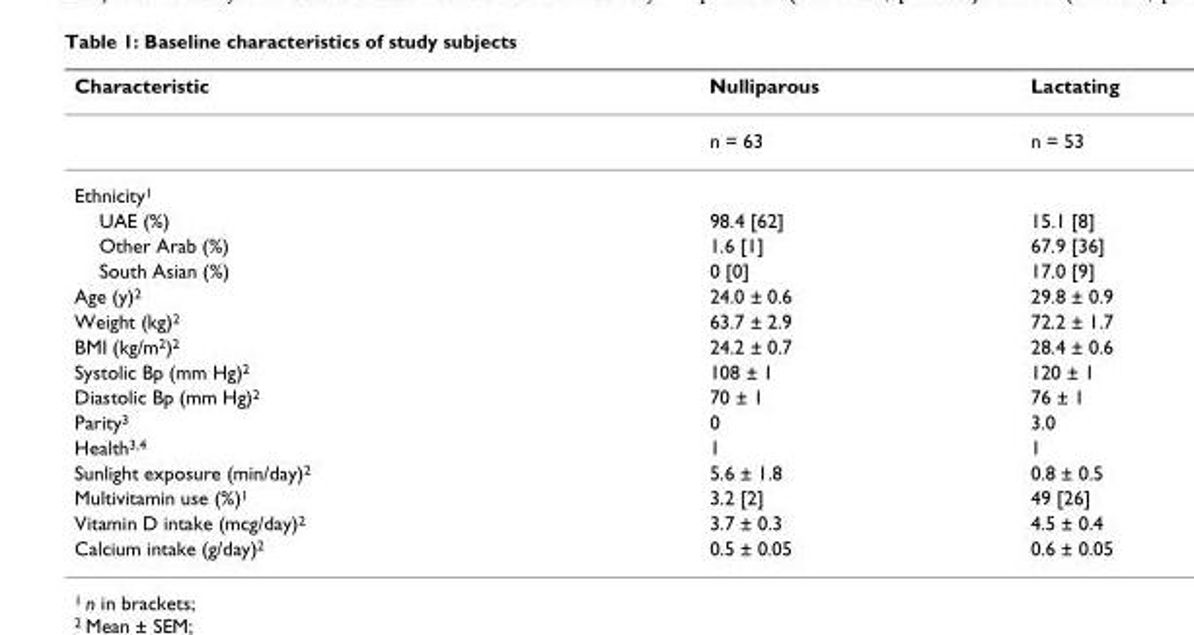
<table><thead><tr><td>Characteristic</td><td>Nulliparous</td><td>Lactating</td></tr></thead><tbody><tr><td></td><td>n = 63</td><td>n = 53</td></tr><tr><td colspan="3">Ethnicity<sup>1</sup></td></tr><tr><td>UAE (%)</td><td>98.4 [62]</td><td>15.1 [8]</td></tr><tr><td>Other Arab (%)</td><td>1.6 [1]</td><td>67.9 [36]</td></tr><tr><td>South Asian (%)</td><td>0 [0]</td><td>17.0 [9]</td></tr><tr><td>Age (y)<sup>2</sup></td><td>24.0 ± 0.6</td><td>29.8 ± 0.9</td></tr><tr><td>Weight (kg)<sup>2</sup></td><td>63.7 ± 2.9</td><td>72.2 ± 1.7</td></tr><tr><td>BMI (kg/m<sup>2</sup>)<sup>2</sup></td><td>24.2 ± 0.7</td><td>28.4 ± 0.6</td></tr><tr><td>Systolic Bp (mm Hg)<sup>2</sup></td><td>108 ± 1</td><td>120 ± 1</td></tr><tr><td>Diastolic Bp (mm Hg)<sup>2</sup></td><td>70 ± 1</td><td>76 ± 1</td></tr><tr><td>Parity<sup>3</sup></td><td>0</td><td>3.0</td></tr><tr><td>Health<sup>3,4</sup></td><td>1</td><td>1</td></tr><tr><td>Sunlight exposure (min/day)<sup>2</sup></td><td>5.6 ± 1.8</td><td>0.8 ± 0.5</td></tr><tr><td>Multivitamin use (%)<sup>1</sup></td><td>3.2 [2]</td><td>49 [26]</td></tr><tr><td>Vitamin D intake (mcg/day)<sup>2</sup></td><td>3.7 ± 0.3</td><td>4.5 ± 0.4</td></tr><tr><td>Calcium intake (g/day)<sup>2</sup></td><td>0.5 ± 0.05</td><td>0.6 ± 0.05</td></tr></tbody></table>